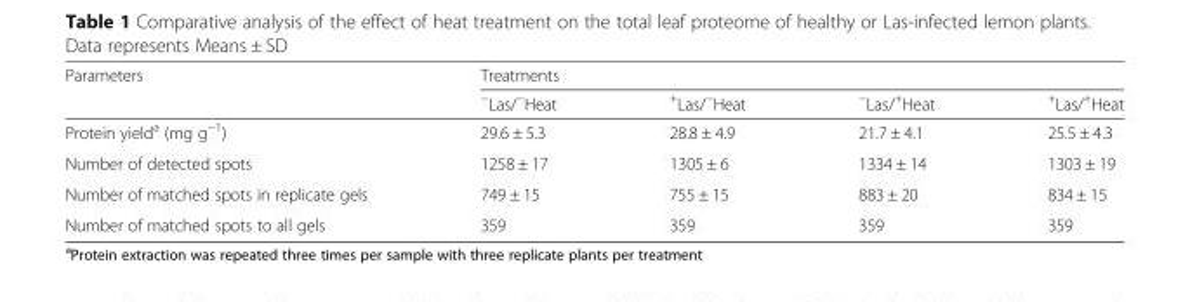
<table><thead><tr><td rowspan="2">Parameters</td><td colspan="4">Treatments</td></tr><tr><td><sup>−</sup>Las/<sup>−</sup>Heat</td><td><sup>+</sup>Las/<sup>−</sup>Heat</td><td><sup>−</sup>Las/<sup>+</sup>Heat</td><td><sup>+</sup>Las/<sup>+</sup>Heat</td></tr></thead><tbody><tr><td>Protein yield<sup>a</sup> (mg g<sup>−1</sup>)</td><td>29.6 ± 5.3</td><td>28.8 ± 4.9</td><td>21.7 ± 4.1</td><td>25.5 ± 4.3</td></tr><tr><td>Number of detected spots</td><td>1258 ± 17</td><td>1305 ± 6</td><td>1334 ± 14</td><td>1303 ± 19</td></tr><tr><td>Number of matched spots in replicate gels</td><td>749 ± 15</td><td>755 ± 15</td><td>883 ± 20</td><td>834 ± 15</td></tr><tr><td>Number of matched spots to all gels</td><td>359</td><td>359</td><td>359</td><td>359</td></tr></tbody></table>